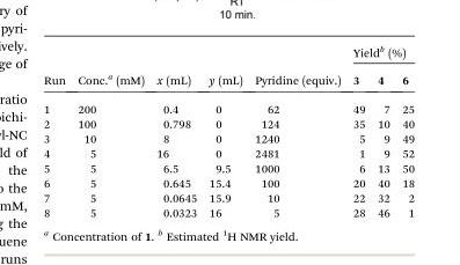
<table><thead><tr><td rowspan="2">Run</td><td rowspan="2">Conc.<sup>a</sup> (mM)</td><td rowspan="2">x (mL)</td><td rowspan="2">y (mL)</td><td rowspan="2">Pyridine (equiv.)</td><td colspan="3">Yield<sup>b</sup> (%)</td></tr><tr><td>3</td><td>4</td><td>6</td></tr></thead><tbody><tr><td>1</td><td>200</td><td>0.4</td><td>0</td><td>62</td><td>49</td><td>7</td><td>25</td></tr><tr><td>2</td><td>100</td><td>0.798</td><td>0</td><td>124</td><td>35</td><td>10</td><td>40</td></tr><tr><td>3</td><td>10</td><td>8</td><td>0</td><td>1240</td><td>5</td><td>9</td><td>49</td></tr><tr><td>4</td><td>5</td><td>16</td><td>0</td><td>2481</td><td>1</td><td>9</td><td>52</td></tr><tr><td>5</td><td>5</td><td>6.5</td><td>9.5</td><td>1000</td><td>6</td><td>13</td><td>50</td></tr><tr><td>6</td><td>5</td><td>0.645</td><td>15.4</td><td>100</td><td>20</td><td>40</td><td>18</td></tr><tr><td>7</td><td>5</td><td>0.0645</td><td>15.9</td><td>10</td><td>22</td><td>32</td><td>2</td></tr><tr><td>8</td><td>5</td><td>0.0323</td><td>16</td><td>5</td><td>28</td><td>46</td><td>1</td></tr></tbody></table>